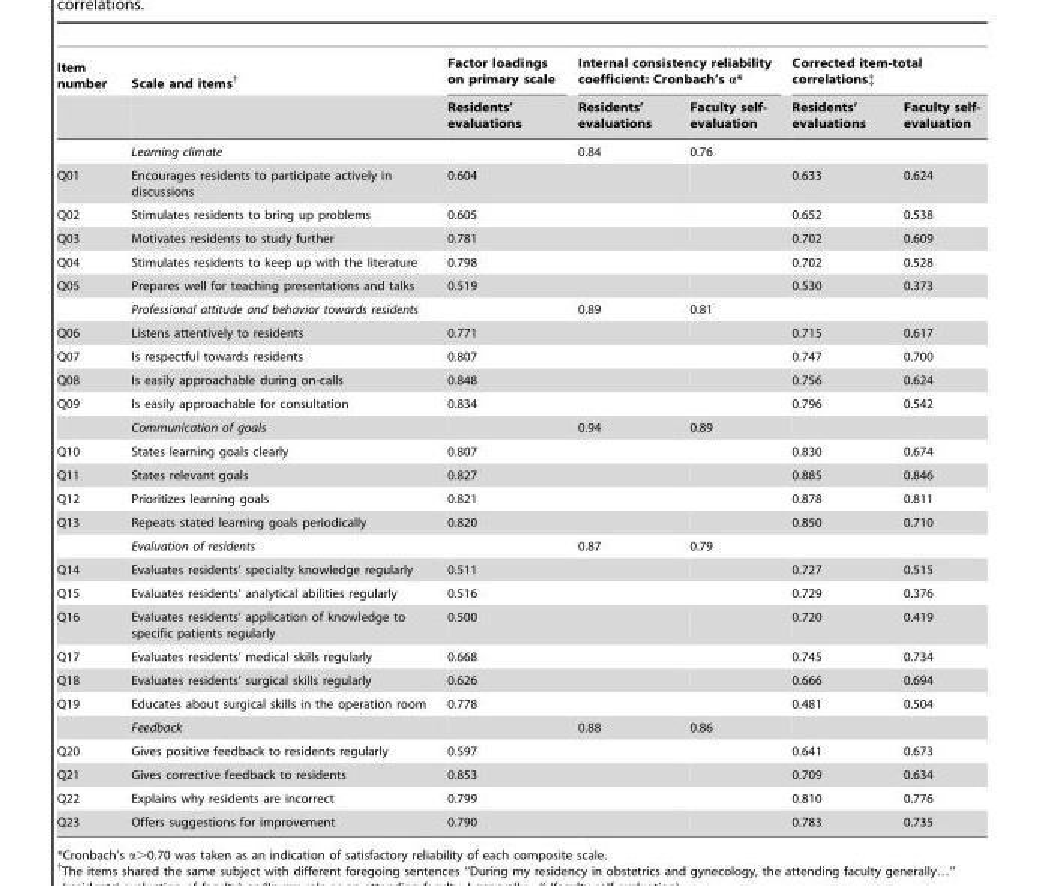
<table><thead><tr><td rowspan="2">Item number</td><td rowspan="2">Scale and items†</td><td rowspan="2">Factor loadings on primary scale Residents’ evaluations</td><td colspan="2">Internal consistency reliability coefficient: Cronbach’s α*</td><td colspan="2">Corrected item-total correlations‡</td></tr><tr><td>Residents’ evaluations</td><td>Faculty self- evaluation</td><td>Residents’ evaluations</td><td>Faculty self- evaluation</td></tr></thead><tbody><tr><td></td><td>Learning climate</td><td></td><td>0.84</td><td>0.76</td><td></td><td></td></tr><tr><td>Q01</td><td>Encourages residents to participate actively in discussions</td><td>0.604</td><td></td><td></td><td>0.633</td><td>0.624</td></tr><tr><td>Q02</td><td>Stimulates residents to bring up problems</td><td>0.605</td><td></td><td></td><td>0.652</td><td>0.538</td></tr><tr><td>Q03</td><td>Motivates residents to study further</td><td>0.781</td><td></td><td></td><td>0.702</td><td>0.609</td></tr><tr><td>Q04</td><td>Stimulates residents to keep up with the literature</td><td>0.798</td><td></td><td></td><td>0.702</td><td>0.528</td></tr><tr><td rowspan="2">Q05</td><td>Prepares well for teaching presentations and talks</td><td>0.519</td><td></td><td></td><td>0.530</td><td>0.373</td></tr><tr><td>Professional attitude and behavior towards residents</td><td></td><td>0.89</td><td>0.81</td><td></td><td></td></tr><tr><td>Q06</td><td>Listens attentively to residents</td><td>0.771</td><td></td><td></td><td>0.715</td><td>0.617</td></tr><tr><td>Q07</td><td>Is respectful towards residents</td><td>0.807</td><td></td><td></td><td>0.747</td><td>0.700</td></tr><tr><td>Q08</td><td>Is easily approachable during on-calls</td><td>0.848</td><td></td><td></td><td>0.756</td><td>0.624</td></tr><tr><td rowspan="2">Q09</td><td>Is easily approachable for consultation</td><td>0.834</td><td></td><td></td><td>0.796</td><td>0.542</td></tr><tr><td>Communication of goals</td><td></td><td>0.94</td><td>0.89</td><td></td><td></td></tr><tr><td>Q10</td><td>States learning goals clearly</td><td>0.807</td><td></td><td></td><td>0.830</td><td>0.674</td></tr><tr><td>Q11</td><td>States relevant goals</td><td>0.827</td><td></td><td></td><td>0.885</td><td>0.846</td></tr><tr><td>Q12</td><td>Prioritizes learning goals</td><td>0.821</td><td></td><td></td><td>0.878</td><td>0.811</td></tr><tr><td rowspan="2">Q13</td><td>Repeats stated learning goals periodically</td><td>0.820</td><td></td><td></td><td>0.850</td><td>0.710</td></tr><tr><td>Evaluation of residents</td><td></td><td>0.87</td><td>0.79</td><td></td><td></td></tr><tr><td>Q14</td><td>Evaluates residents’ specialty knowledge regularly</td><td>0.511</td><td></td><td></td><td>0.727</td><td>0.515</td></tr><tr><td>Q15</td><td>Evaluates residents’ analytical abilities regularly</td><td>0.516</td><td></td><td></td><td>0.729</td><td>0.376</td></tr><tr><td>Q16</td><td>Evaluates residents’ application of knowledge to specific patients regularly</td><td>0.500</td><td></td><td></td><td>0.720</td><td>0.419</td></tr><tr><td>Q17</td><td>Evaluates residents’ medical skills regularly</td><td>0.668</td><td></td><td></td><td>0.745</td><td>0.734</td></tr><tr><td>Q18</td><td>Evaluates residents’ surgical skills regularly</td><td>0.626</td><td></td><td></td><td>0.666</td><td>0.694</td></tr><tr><td rowspan="2">Q19</td><td>Educates about surgical skills in the operation room</td><td>0.778</td><td></td><td></td><td>0.481</td><td>0.504</td></tr><tr><td>Feedback</td><td></td><td>0.88</td><td>0.86</td><td></td><td></td></tr><tr><td>Q20</td><td>Gives positive feedback to residents regularly</td><td>0.597</td><td></td><td></td><td>0.641</td><td>0.673</td></tr><tr><td>Q21</td><td>Gives corrective feedback to residents</td><td>0.853</td><td></td><td></td><td>0.709</td><td>0.634</td></tr><tr><td>Q22</td><td>Explains why residents are incorrect</td><td>0.799</td><td></td><td></td><td>0.810</td><td>0.776</td></tr><tr><td>Q23</td><td>Offers suggestions for improvement</td><td>0.790</td><td></td><td></td><td>0.783</td><td>0.735</td></tr></tbody></table>